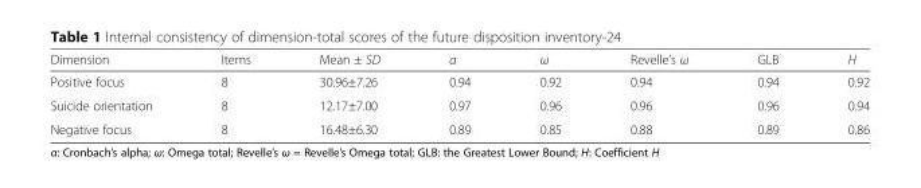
<table><thead><tr><td>Dimension</td><td>Items</td><td>Mean ± SD</td><td>α</td><td>ω</td><td>Revelle’s ω</td><td>GLB</td><td>H</td></tr></thead><tbody><tr><td>Positive focus</td><td>8</td><td>30.96±7.26</td><td>0.94</td><td>0.92</td><td>0.94</td><td>0.94</td><td>0.92</td></tr><tr><td>Suicide orientation</td><td>8</td><td>12.17±7.00</td><td>0.97</td><td>0.96</td><td>0.96</td><td>0.96</td><td>0.94</td></tr><tr><td>Negative focus</td><td>8</td><td>16.48±6.30</td><td>0.89</td><td>0.85</td><td>0.88</td><td>0.89</td><td>0.86</td></tr></tbody></table>